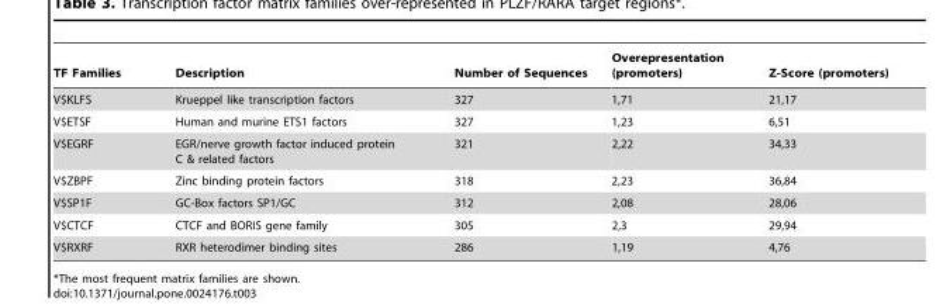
<table><thead><tr><td>TF Families</td><td>Description</td><td>Number of Sequences</td><td>Overepresentation (promoters)</td><td>Z-Score (promoters)</td></tr></thead><tbody><tr><td>V$KLFS</td><td>Krueppel like transcription factors</td><td>327</td><td>1,71</td><td>21,17</td></tr><tr><td>V$ETSF</td><td>Human and murine ETS1 factors</td><td>327</td><td>1,23</td><td>6,51</td></tr><tr><td>V$EGRF</td><td>EGR/nerve growth factor induced protein C &amp; related factors</td><td>321</td><td>2,22</td><td>34,33</td></tr><tr><td>V$ZBPF</td><td>Zinc binding protein factors</td><td>318</td><td>2,23</td><td>36,84</td></tr><tr><td>V$SP1F</td><td>GC-Box factors SP1/GC</td><td>312</td><td>2,08</td><td>28,06</td></tr><tr><td>V$CTCF</td><td>CTCF and BORIS gene family</td><td>305</td><td>2,3</td><td>29,94</td></tr><tr><td>V$RXRF</td><td>RXR heterodimer binding sites</td><td>286</td><td>1,19</td><td>4,76</td></tr></tbody></table>